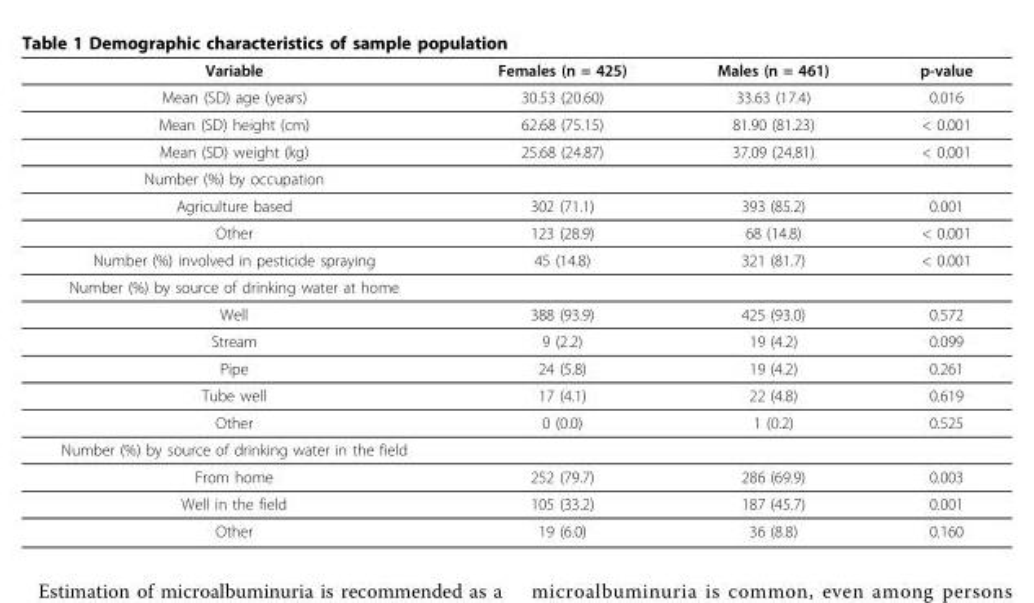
<table><thead><tr><td>Variable</td><td>Females (n = 425)</td><td>Males (n = 461)</td><td>p-value</td></tr></thead><tbody><tr><td>Mean (SD) age (years)</td><td>30.53 (20.60)</td><td>33.63 (17.4)</td><td>0.016</td></tr><tr><td>Mean (SD) height (cm)</td><td>62.68 (75.15)</td><td>81.90 (81.23)</td><td>&lt; 0.001</td></tr><tr><td>Mean (SD) weight (kg)</td><td>25.68 (24.87)</td><td>37.09 (24.81)</td><td>&lt; 0.001</td></tr><tr><td colspan="4">Number (%) by occupation</td></tr><tr><td>Agriculture based</td><td>302 (71.1)</td><td>393 (85.2)</td><td>0.001</td></tr><tr><td>Other</td><td>123 (28.9)</td><td>68 (14.8)</td><td>&lt; 0.001</td></tr><tr><td>Number (%) involved in pesticide spraying</td><td>45 (14.8)</td><td>321 (81.7)</td><td>&lt; 0.001</td></tr><tr><td colspan="4">Number (%) by source of drinking water at home</td></tr><tr><td>Well</td><td>388 (93.9)</td><td>425 (93.0)</td><td>0.572</td></tr><tr><td>Stream</td><td>9 (2.2)</td><td>19 (4.2)</td><td>0.099</td></tr><tr><td>Pipe</td><td>24 (5.8)</td><td>19 (4.2)</td><td>0.261</td></tr><tr><td>Tube well</td><td>17 (4.1)</td><td>22 (4.8)</td><td>0.619</td></tr><tr><td>Other</td><td>0 (0.0)</td><td>1 (0.2)</td><td>0.525</td></tr><tr><td colspan="4">Number (%) by source of drinking water in the field</td></tr><tr><td>From home</td><td>252 (79.7)</td><td>286 (69.9)</td><td>0.003</td></tr><tr><td>Well in the field</td><td>105 (33.2)</td><td>187 (45.7)</td><td>0.001</td></tr><tr><td>Other</td><td>19 (6.0)</td><td>36 (8.8)</td><td>0.160</td></tr></tbody></table>